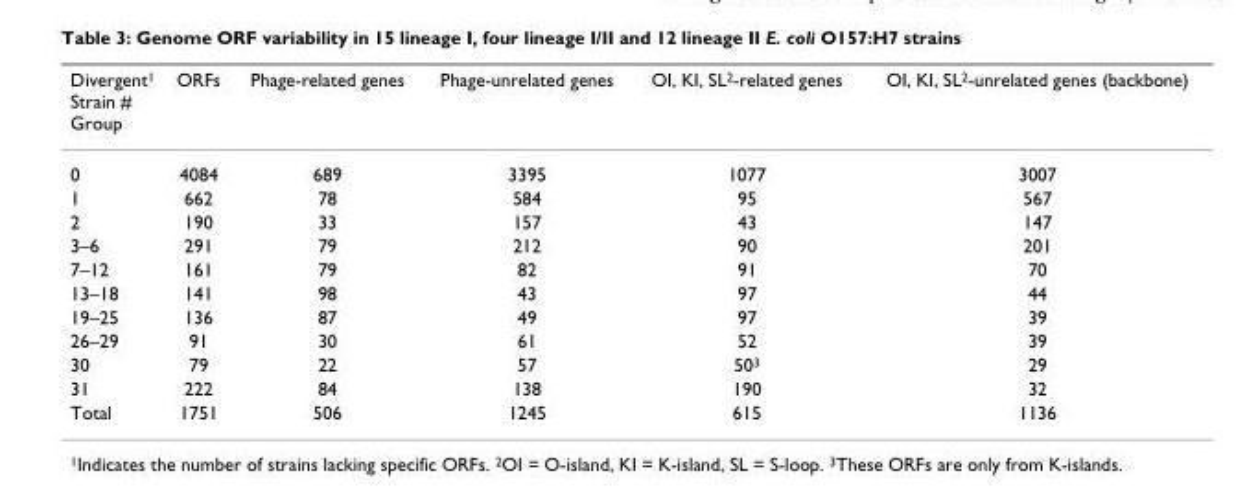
<table><thead><tr><td>Divergent1 Strain # Group</td><td>ORFs</td><td>Phage-related genes</td><td>Phage-unrelated genes</td><td>OI, KI, SL2-related genes</td><td>OI, KI, SL2-unrelated genes (backbone)</td></tr></thead><tbody><tr><td>0</td><td>4084</td><td>689</td><td>3395</td><td>1077</td><td>3007</td></tr><tr><td>1</td><td>662</td><td>78</td><td>584</td><td>95</td><td>567</td></tr><tr><td>2</td><td>190</td><td>33</td><td>157</td><td>43</td><td>147</td></tr><tr><td>3–6</td><td>291</td><td>79</td><td>212</td><td>90</td><td>201</td></tr><tr><td>7–12</td><td>161</td><td>79</td><td>82</td><td>91</td><td>70</td></tr><tr><td>13–18</td><td>141</td><td>98</td><td>43</td><td>97</td><td>44</td></tr><tr><td>19–25</td><td>136</td><td>87</td><td>49</td><td>97</td><td>39</td></tr><tr><td>26–29</td><td>91</td><td>30</td><td>61</td><td>52</td><td>39</td></tr><tr><td>30</td><td>79</td><td>22</td><td>57</td><td>503</td><td>29</td></tr><tr><td>31</td><td>222</td><td>84</td><td>138</td><td>190</td><td>32</td></tr><tr><td>Total</td><td>1751</td><td>506</td><td>1245</td><td>615</td><td>1136</td></tr></tbody></table>